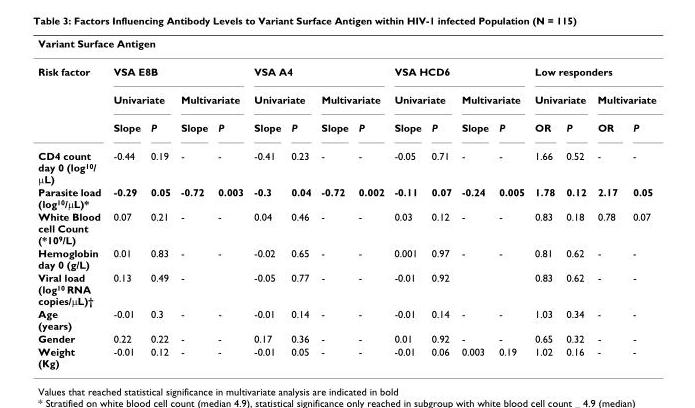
<table><thead><tr><td colspan="17">Variant Surface Antigen</td></tr><tr><td rowspan="3">Risk factor</td><td colspan="4">VSA E8B</td><td colspan="4">VSA A4</td><td colspan="4">VSA HCD6</td><td colspan="4">Low responders</td></tr><tr><td colspan="2">Univariate</td><td colspan="2">Multivariate</td><td colspan="2">Univariate</td><td colspan="2">Multivariate</td><td colspan="2">Univariate</td><td colspan="2">Multivariate</td><td colspan="2">Univariate</td><td colspan="2">Multivariate</td></tr><tr><td>Slope</td><td>P</td><td>Slope</td><td>P</td><td>Slope</td><td>P</td><td>Slope</td><td>P</td><td>Slope</td><td>P</td><td>Slope</td><td>P</td><td>OR</td><td>P</td><td>OR</td><td>P</td></tr></thead><tbody><tr><td>CD4 count day 0 (log<sup>10</sup>/ μL)</td><td>-0.44</td><td>0.19</td><td>-</td><td>-</td><td>-0.41</td><td>0.23</td><td>-</td><td>-</td><td>-0.05</td><td>0.71</td><td>-</td><td>-</td><td>1.66</td><td>0.52</td><td>-</td><td>-</td></tr><tr><td>Parasite load (log<sup>10</sup>/μL)*</td><td>-0.29</td><td>0.05</td><td>-0.72</td><td>0.003</td><td>-0.3</td><td>0.04</td><td>-0.72</td><td>0.002</td><td>-0.11</td><td>0.07</td><td>-0.24</td><td>0.005</td><td>1.78</td><td>0.12</td><td>2.17</td><td>0.05</td></tr><tr><td>White Blood cell Count (*10<sup>9</sup>/L)</td><td>0.07</td><td>0.21</td><td>-</td><td>-</td><td>0.04</td><td>0.46</td><td>-</td><td>-</td><td>0.03</td><td>0.12</td><td>-</td><td>-</td><td>0.83</td><td>0.18</td><td>0.78</td><td>0.07</td></tr><tr><td>Hemoglobin day 0 (g/L)</td><td>0.01</td><td>0.83</td><td>-</td><td>-</td><td>-0.02</td><td>0.65</td><td>-</td><td>-</td><td>0.001</td><td>0.97</td><td>-</td><td>-</td><td>0.81</td><td>0.62</td><td>-</td><td>-</td></tr><tr><td>Viral load (log<sup>10</sup> RNA copies/μL)†</td><td>0.13</td><td>0.49</td><td>-</td><td></td><td>-0.05</td><td>0.77</td><td>-</td><td>-</td><td>-0.01</td><td>0.92</td><td></td><td></td><td>0.83</td><td>0.62</td><td>-</td><td>-</td></tr><tr><td>Age (years)</td><td>-0.01</td><td>0.3</td><td>-</td><td>-</td><td>-0.01</td><td>0.14</td><td>-</td><td>-</td><td>-0.01</td><td>0.14</td><td>-</td><td>-</td><td>1.03</td><td>0.34</td><td>-</td><td>-</td></tr><tr><td>Gender</td><td>0.22</td><td>0.22</td><td>-</td><td>-</td><td>0.17</td><td>0.36</td><td>-</td><td>-</td><td>0.01</td><td>0.92</td><td>-</td><td>-</td><td>0.65</td><td>0.32</td><td>-</td><td>-</td></tr><tr><td>Weight (Kg)</td><td>-0.01</td><td>0.12</td><td>-</td><td>-</td><td>-0.01</td><td>0.05</td><td>-</td><td>-</td><td>-0.01</td><td>0.06</td><td>0.003</td><td>0.19</td><td>1.02</td><td>0.16</td><td>-</td><td>-</td></tr></tbody></table>